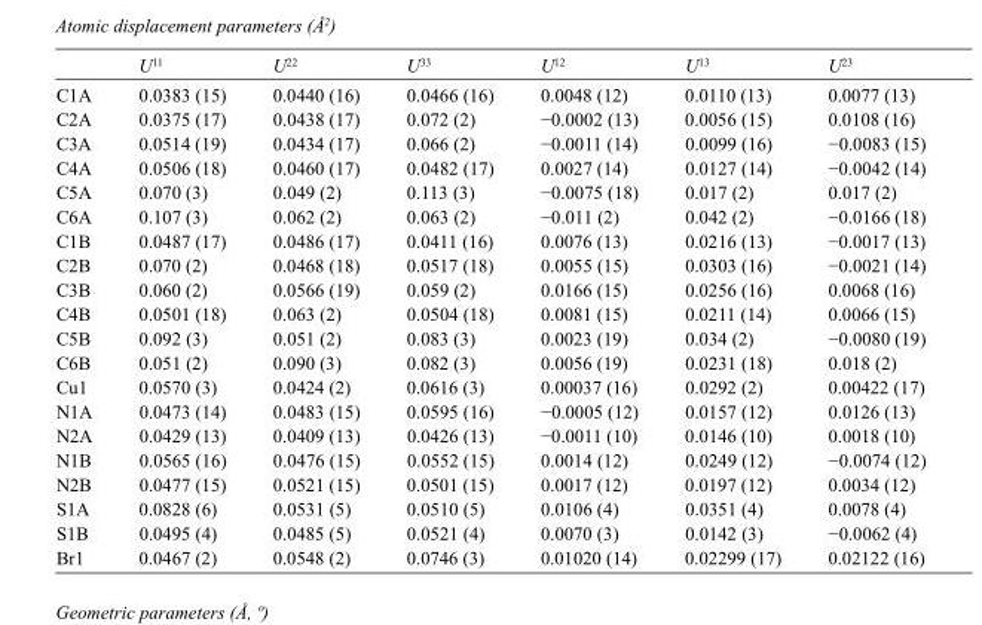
<table><thead><tr><td></td><td>U<sup>11</sup></td><td>U<sup>22</sup></td><td>U<sup>33</sup></td><td>U<sup>12</sup></td><td>U<sup>13</sup></td><td>U<sup>23</sup></td></tr></thead><tbody><tr><td>C1A</td><td>0.0383 (15)</td><td>0.0440 (16)</td><td>0.0466 (16)</td><td>0.0048 (12)</td><td>0.0110 (13)</td><td>0.0077 (13)</td></tr><tr><td>C2A</td><td>0.0375 (17)</td><td>0.0438 (17)</td><td>0.072 (2)</td><td>−0.0002 (13)</td><td>0.0056 (15)</td><td>0.0108 (16)</td></tr><tr><td>C3A</td><td>0.0514 (19)</td><td>0.0434 (17)</td><td>0.066 (2)</td><td>−0.0011 (14)</td><td>0.0099 (16)</td><td>−0.0083 (15)</td></tr><tr><td>C4A</td><td>0.0506 (18)</td><td>0.0460 (17)</td><td>0.0482 (17)</td><td>0.0027 (14)</td><td>0.0127 (14)</td><td>−0.0042 (14)</td></tr><tr><td>C5A</td><td>0.070 (3)</td><td>0.049 (2)</td><td>0.113 (3)</td><td>−0.0075 (18)</td><td>0.017 (2)</td><td>0.017 (2)</td></tr><tr><td>C6A</td><td>0.107 (3)</td><td>0.062 (2)</td><td>0.063 (2)</td><td>−0.011 (2)</td><td>0.042 (2)</td><td>−0.0166 (18)</td></tr><tr><td>C1B</td><td>0.0487 (17)</td><td>0.0486 (17)</td><td>0.0411 (16)</td><td>0.0076 (13)</td><td>0.0216 (13)</td><td>−0.0017 (13)</td></tr><tr><td>C2B</td><td>0.070 (2)</td><td>0.0468 (18)</td><td>0.0517 (18)</td><td>0.0055 (15)</td><td>0.0303 (16)</td><td>−0.0021 (14)</td></tr><tr><td>C3B</td><td>0.060 (2)</td><td>0.0566 (19)</td><td>0.059 (2)</td><td>0.0166 (15)</td><td>0.0256 (16)</td><td>0.0068 (16)</td></tr><tr><td>C4B</td><td>0.0501 (18)</td><td>0.063 (2)</td><td>0.0504 (18)</td><td>0.0081 (15)</td><td>0.0211 (14)</td><td>0.0066 (15)</td></tr><tr><td>C5B</td><td>0.092 (3)</td><td>0.051 (2)</td><td>0.083 (3)</td><td>0.0023 (19)</td><td>0.034 (2)</td><td>−0.0080 (19)</td></tr><tr><td>C6B</td><td>0.051 (2)</td><td>0.090 (3)</td><td>0.082 (3)</td><td>0.0056 (19)</td><td>0.0231 (18)</td><td>0.018 (2)</td></tr><tr><td>Cu1</td><td>0.0570 (3)</td><td>0.0424 (2)</td><td>0.0616 (3)</td><td>0.00037 (16)</td><td>0.0292 (2)</td><td>0.00422 (17)</td></tr><tr><td>N1A</td><td>0.0473 (14)</td><td>0.0483 (15)</td><td>0.0595 (16)</td><td>−0.0005 (12)</td><td>0.0157 (12)</td><td>0.0126 (13)</td></tr><tr><td>N2A</td><td>0.0429 (13)</td><td>0.0409 (13)</td><td>0.0426 (13)</td><td>−0.0011 (10)</td><td>0.0146 (10)</td><td>0.0018 (10)</td></tr><tr><td>N1B</td><td>0.0565 (16)</td><td>0.0476 (15)</td><td>0.0552 (15)</td><td>0.0014 (12)</td><td>0.0249 (12)</td><td>−0.0074 (12)</td></tr><tr><td>N2B</td><td>0.0477 (15)</td><td>0.0521 (15)</td><td>0.0501 (15)</td><td>0.0017 (12)</td><td>0.0197 (12)</td><td>0.0034 (12)</td></tr><tr><td>S1A</td><td>0.0828 (6)</td><td>0.0531 (5)</td><td>0.0510 (5)</td><td>0.0106 (4)</td><td>0.0351 (4)</td><td>0.0078 (4)</td></tr><tr><td>S1B</td><td>0.0495 (4)</td><td>0.0485 (5)</td><td>0.0521 (4)</td><td>0.0070 (3)</td><td>0.0142 (3)</td><td>−0.0062 (4)</td></tr><tr><td>Br1</td><td>0.0467 (2)</td><td>0.0548 (2)</td><td>0.0746 (3)</td><td>0.01020 (14)</td><td>0.02299 (17)</td><td>0.02122 (16)</td></tr></tbody></table>